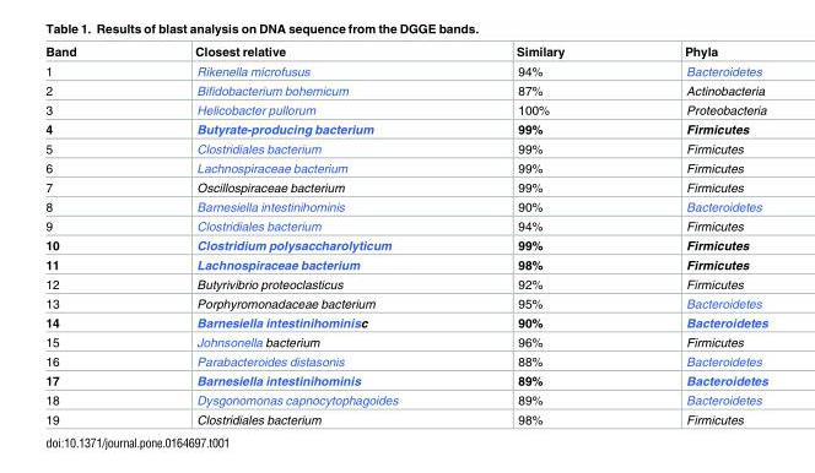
<table><thead><tr><td>Band</td><td>Closest relative</td><td>Similary</td><td>Phyla</td></tr></thead><tbody><tr><td>1</td><td>Rikenella microfusus</td><td>94%</td><td>Bacteroidetes</td></tr><tr><td>2</td><td>Bifidobacterium bohemicum</td><td>87%</td><td>Actinobacteria</td></tr><tr><td>3</td><td>Helicobacter pullorum</td><td>100%</td><td>Proteobacteria</td></tr><tr><td>4</td><td>Butyrate-producing bacterium</td><td>99%</td><td>Firmicutes</td></tr><tr><td>5</td><td>Clostridiales bacterium</td><td>99%</td><td>Firmicutes</td></tr><tr><td>6</td><td>Lachnospiraceae bacterium</td><td>99%</td><td>Firmicutes</td></tr><tr><td>7</td><td>Oscillospiraceae bacterium</td><td>99%</td><td>Firmicutes</td></tr><tr><td>8</td><td>Barnesiella intestinihominis</td><td>90%</td><td>Bacteroidetes</td></tr><tr><td>9</td><td>Clostridiales bacterium</td><td>94%</td><td>Firmicutes</td></tr><tr><td>10</td><td>Clostridium polysaccharolyticum</td><td>99%</td><td>Firmicutes</td></tr><tr><td>11</td><td>Lachnospiraceae bacterium</td><td>98%</td><td>Firmicutes</td></tr><tr><td>12</td><td>Butyrivibrio proteoclasticus</td><td>92%</td><td>Firmicutes</td></tr><tr><td>13</td><td>Porphyromonadaceae bacterium</td><td>95%</td><td>Bacteroidetes</td></tr><tr><td>14</td><td>Barnesiella intestinihominisc</td><td>90%</td><td>Bacteroidetes</td></tr><tr><td>15</td><td>Johnsonella bacterium</td><td>96%</td><td>Firmicutes</td></tr><tr><td>16</td><td>Parabacteroides distasonis</td><td>88%</td><td>Bacteroidetes</td></tr><tr><td>17</td><td>Barnesiella intestinihominis</td><td>89%</td><td>Bacteroidetes</td></tr><tr><td>18</td><td>Dysgonomonas capnocytophagoides</td><td>89%</td><td>Bacteroidetes</td></tr><tr><td>19</td><td>Clostridiales bacterium</td><td>98%</td><td>Firmicutes</td></tr></tbody></table>